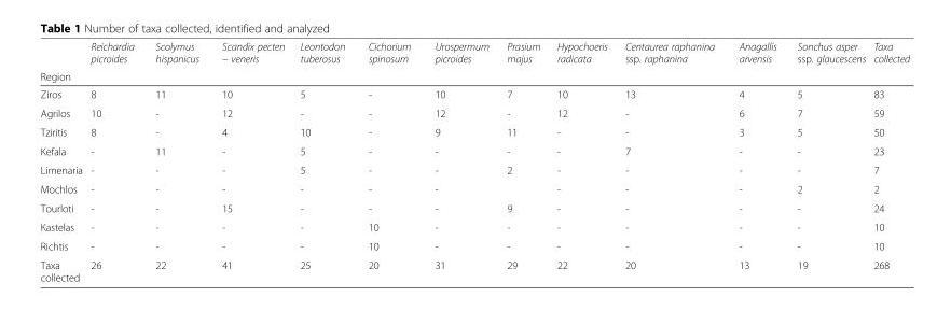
<table><thead><tr><td rowspan="2">Region</td><td rowspan="2">Reichardia picroides</td><td rowspan="2">Scolymus hispanicus</td><td rowspan="2">Scandix pecten – veneris</td><td rowspan="2">Leontodon tuberosus</td><td rowspan="2">Cichorium spinosum</td><td rowspan="2">Urospermum picroides</td><td rowspan="2">Prasium majus</td><td rowspan="2">Hypochoeris radicata</td><td rowspan="2">Centaurea raphanina ssp. raphanina</td><td rowspan="2">Anagallis arvensis</td><td rowspan="2">Sonchus asper ssp. glaucescens</td><td rowspan="2">Taxa collected</td></tr><tr></tr></thead><tbody><tr><td>Ziros</td><td>8</td><td>11</td><td>10</td><td>5</td><td>-</td><td>10</td><td>7</td><td>10</td><td>13</td><td>4</td><td>5</td><td>83</td></tr><tr><td>Αgrilos</td><td>10</td><td>-</td><td>12</td><td>-</td><td>-</td><td>12</td><td>-</td><td>12</td><td>-</td><td>6</td><td>7</td><td>59</td></tr><tr><td>Τziritis</td><td>8</td><td>-</td><td>4</td><td>10</td><td>-</td><td>9</td><td>11</td><td>-</td><td>-</td><td>3</td><td>5</td><td>50</td></tr><tr><td>Κefala</td><td>-</td><td>11</td><td>-</td><td>5</td><td>-</td><td>-</td><td>-</td><td>-</td><td>7</td><td>-</td><td>-</td><td>23</td></tr><tr><td>Limenaria</td><td>-</td><td>-</td><td>-</td><td>5</td><td>-</td><td>-</td><td>2</td><td>-</td><td>-</td><td>-</td><td>-</td><td>7</td></tr><tr><td>Mochlos</td><td>-</td><td>-</td><td>-</td><td>-</td><td>-</td><td>-</td><td></td><td>-</td><td>-</td><td>-</td><td>2</td><td>2</td></tr><tr><td>Τοurloti</td><td>-</td><td>-</td><td>15</td><td>-</td><td>-</td><td>-</td><td>9</td><td>-</td><td>-</td><td>-</td><td>-</td><td>24</td></tr><tr><td>Κastelas</td><td>-</td><td>-</td><td>-</td><td>-</td><td>10</td><td>-</td><td>-</td><td>-</td><td>-</td><td>-</td><td>-</td><td>10</td></tr><tr><td>Richtis</td><td>-</td><td>-</td><td>-</td><td>-</td><td>10</td><td>-</td><td>-</td><td>-</td><td>-</td><td>-</td><td>-</td><td>10</td></tr><tr><td>Taxa collected</td><td>26</td><td>22</td><td>41</td><td>25</td><td>20</td><td>31</td><td>29</td><td>22</td><td>20</td><td>13</td><td>19</td><td>268</td></tr></tbody></table>